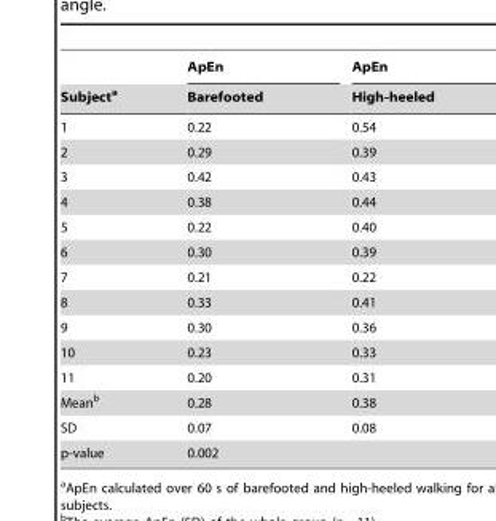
<table><thead><tr><td rowspan="2">Subject<sup>a</sup></td><td rowspan="2">ApEn Barefooted</td><td rowspan="2">ApEn High-heeled</td></tr><tr></tr></thead><tbody><tr><td>1</td><td>0.22</td><td>0.54</td></tr><tr><td>2</td><td>0.29</td><td>0.39</td></tr><tr><td>3</td><td>0.42</td><td>0.43</td></tr><tr><td>4</td><td>0.38</td><td>0.44</td></tr><tr><td>5</td><td>0.22</td><td>0.40</td></tr><tr><td>6</td><td>0.30</td><td>0.39</td></tr><tr><td>7</td><td>0.21</td><td>0.22</td></tr><tr><td>8</td><td>0.33</td><td>0.41</td></tr><tr><td>9</td><td>0.30</td><td>0.36</td></tr><tr><td>10</td><td>0.23</td><td>0.33</td></tr><tr><td>11</td><td>0.20</td><td>0.31</td></tr><tr><td>Mean<sup>b</sup></td><td>0.28</td><td>0.38</td></tr><tr><td>SD</td><td>0.07</td><td>0.08</td></tr><tr><td>p-value</td><td colspan="2">0.002</td></tr></tbody></table>